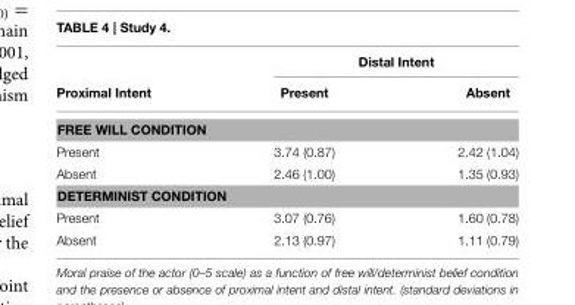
<table><thead><tr><td rowspan="2">Proximal Intent</td><td colspan="2">Distal Intent</td></tr><tr><td>Present</td><td>Absent</td></tr></thead><tbody><tr><td colspan="3">FREE WILL CONDITION</td></tr><tr><td>Present</td><td>3.74 (0.87)</td><td>2.42 (1.04)</td></tr><tr><td>Absent</td><td>2.46 (1.00)</td><td>1.35 (0.93)</td></tr><tr><td colspan="3">DETERMINIST CONDITION</td></tr><tr><td>Present</td><td>3.07 (0.76)</td><td>1.60 (0.78)</td></tr><tr><td>Absent</td><td>2.13 (0.97)</td><td>1.11 (0.79)</td></tr></tbody></table>